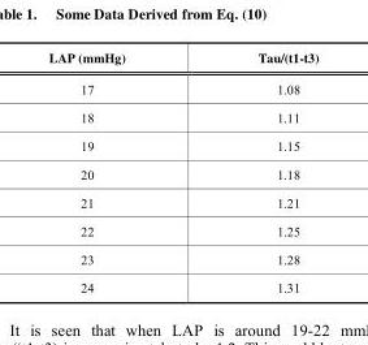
<table><tbody><tr><td>LAP (mmHg)</td><td>Tau/(t1-t3)</td></tr><tr><td>17</td><td>1.08</td></tr><tr><td>18</td><td>1.11</td></tr><tr><td>19</td><td>1.15</td></tr><tr><td>20</td><td>1.18</td></tr><tr><td>21</td><td>1.21</td></tr><tr><td>22</td><td>1.25</td></tr><tr><td>23</td><td>1.28</td></tr><tr><td>24</td><td>1.31</td></tr></tbody></table>